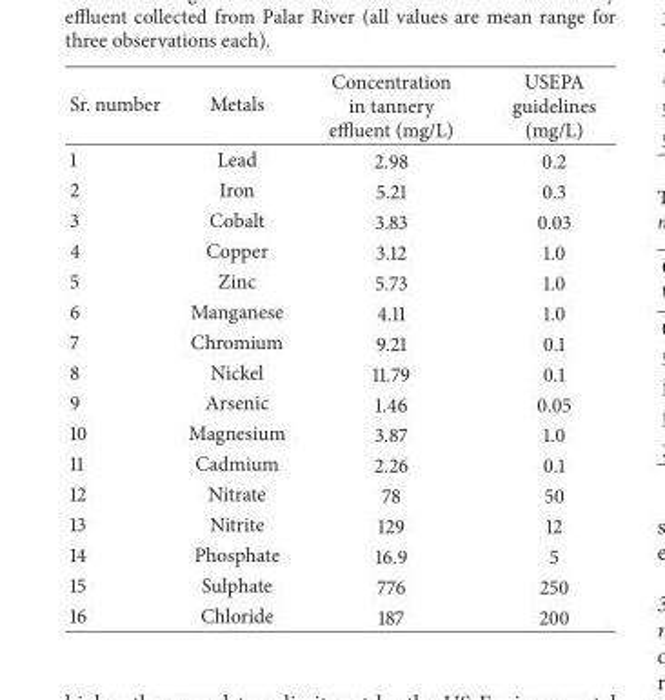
<table><thead><tr><td>Sr. number</td><td>Metals</td><td>Concentration in tannery effluent (mg/L)</td><td>USEPA guidelines (mg/L)</td></tr></thead><tbody><tr><td>1</td><td>Lead</td><td>2.98</td><td>0.2</td></tr><tr><td>2</td><td>Iron</td><td>5.21</td><td>0.3</td></tr><tr><td>3</td><td>Cobalt</td><td>3.83</td><td>0.03</td></tr><tr><td>4</td><td>Copper</td><td>3.12</td><td>1.0</td></tr><tr><td>5</td><td>Zinc</td><td>5.73</td><td>1.0</td></tr><tr><td>6</td><td>Manganese</td><td>4.11</td><td>1.0</td></tr><tr><td>7</td><td>Chromium</td><td>9.21</td><td>0.1</td></tr><tr><td>8</td><td>Nickel</td><td>11.79</td><td>0.1</td></tr><tr><td>9</td><td>Arsenic</td><td>1.46</td><td>0.05</td></tr><tr><td>10</td><td>Magnesium</td><td>3.87</td><td>1.0</td></tr><tr><td>11</td><td>Cadmium</td><td>2.26</td><td>0.1</td></tr><tr><td>12</td><td>Nitrate</td><td>78</td><td>50</td></tr><tr><td>13</td><td>Nitrite</td><td>129</td><td>12</td></tr><tr><td>14</td><td>Phosphate</td><td>16.9</td><td>5</td></tr><tr><td>15</td><td>Sulphate</td><td>776</td><td>250</td></tr><tr><td>16</td><td>Chloride</td><td>187</td><td>200</td></tr></tbody></table>